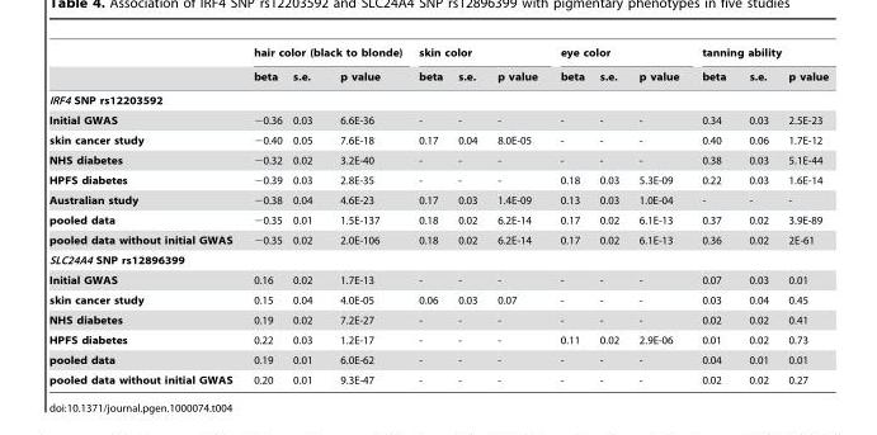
<table><thead><tr><td rowspan="2"></td><td colspan="3">hair color (black to blonde)</td><td colspan="3">skin color</td><td colspan="3">eye color</td><td colspan="3">tanning ability</td></tr><tr><td>beta</td><td>s.e.</td><td>p value</td><td>beta</td><td>s.e.</td><td>p value</td><td>beta</td><td>s.e.</td><td>p value</td><td>beta</td><td>s.e.</td><td>p value</td></tr></thead><tbody><tr><td colspan="13">IRF4 SNP rs12203592</td></tr><tr><td>Initial GWAS</td><td>−0.36</td><td>0.03</td><td>6.6E-36</td><td>-</td><td>-</td><td>-</td><td>-</td><td>-</td><td>-</td><td>0.34</td><td>0.03</td><td>2.5E-23</td></tr><tr><td>skin cancer study</td><td>−0.40</td><td>0.05</td><td>7.6E-18</td><td>0.17</td><td>0.04</td><td>8.0E-05</td><td>-</td><td>-</td><td>-</td><td>0.40</td><td>0.06</td><td>1.7E-12</td></tr><tr><td>NHS diabetes</td><td>−0.32</td><td>0.02</td><td>3.2E-40</td><td>-</td><td>-</td><td>-</td><td>-</td><td>-</td><td>-</td><td>0.38</td><td>0.03</td><td>5.1E-44</td></tr><tr><td>HPFS diabetes</td><td>−0.39</td><td>0.03</td><td>2.8E-35</td><td>-</td><td>-</td><td>-</td><td>0.18</td><td>0.03</td><td>5.3E-09</td><td>0.22</td><td>0.03</td><td>1.6E-14</td></tr><tr><td>Australian study</td><td>−0.38</td><td>0.04</td><td>4.6E-23</td><td>0.17</td><td>0.03</td><td>1.4E-09</td><td>0.13</td><td>0.03</td><td>1.0E-04</td><td>-</td><td>-</td><td>-</td></tr><tr><td>pooled data</td><td>−0.35</td><td>0.01</td><td>1.5E-137</td><td>0.18</td><td>0.02</td><td>6.2E-14</td><td>0.17</td><td>0.02</td><td>6.1E-13</td><td>0.37</td><td>0.02</td><td>3.9E-89</td></tr><tr><td>pooled data without initial GWAS</td><td>−0.35</td><td>0.02</td><td>2.0E-106</td><td>0.18</td><td>0.02</td><td>6.2E-14</td><td>0.17</td><td>0.02</td><td>6.1E-13</td><td>0.36</td><td>0.02</td><td>2E-61</td></tr><tr><td colspan="13">SLC24A4 SNP rs12896399</td></tr><tr><td>Initial GWAS</td><td>0.16</td><td>0.02</td><td>1.7E-13</td><td>-</td><td>-</td><td>-</td><td>-</td><td>-</td><td>-</td><td>0.07</td><td>0.03</td><td>0.01</td></tr><tr><td>skin cancer study</td><td>0.15</td><td>0.04</td><td>4.0E-05</td><td>0.06</td><td>0.03</td><td>0.07</td><td>-</td><td>-</td><td>-</td><td>0.03</td><td>0.04</td><td>0.45</td></tr><tr><td>NHS diabetes</td><td>0.19</td><td>0.02</td><td>7.2E-27</td><td>-</td><td>-</td><td>-</td><td>-</td><td>-</td><td>-</td><td>0.02</td><td>0.02</td><td>0.41</td></tr><tr><td>HPFS diabetes</td><td>0.22</td><td>0.03</td><td>1.2E-17</td><td>-</td><td>-</td><td>-</td><td>0.11</td><td>0.02</td><td>2.9E-06</td><td>0.01</td><td>0.02</td><td>0.73</td></tr><tr><td>pooled data</td><td>0.19</td><td>0.01</td><td>6.0E-62</td><td>-</td><td>-</td><td>-</td><td>-</td><td>-</td><td>-</td><td>0.04</td><td>0.01</td><td>0.01</td></tr><tr><td>pooled data without initial GWAS</td><td>0.20</td><td>0.01</td><td>9.3E-47</td><td>-</td><td>-</td><td>-</td><td>-</td><td>-</td><td>-</td><td>0.02</td><td>0.02</td><td>0.27</td></tr></tbody></table>